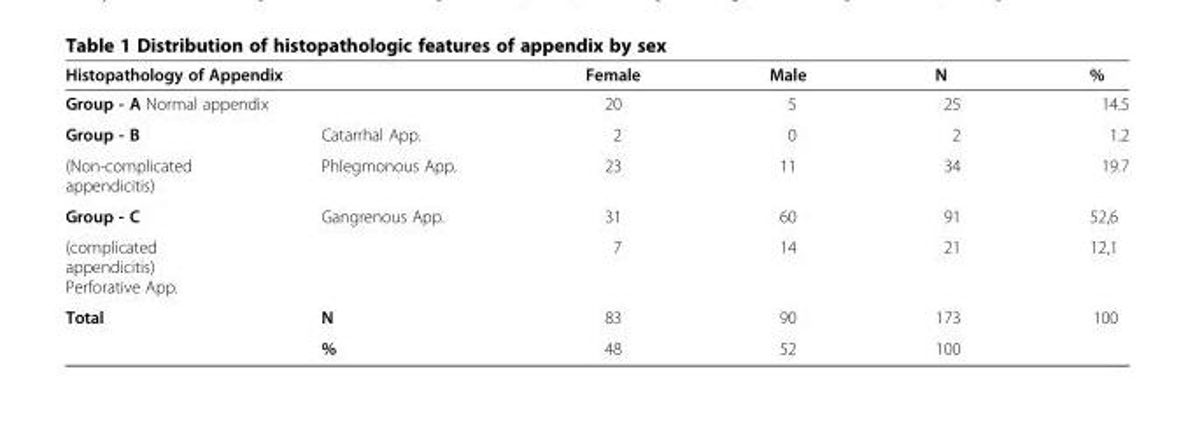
<table><thead><tr><td rowspan="2" colspan="2">Histopathology of Appendix Group - A Normal appendix</td><td rowspan="3">Female 20 2</td><td rowspan="3">Male 5 0</td><td rowspan="3">N 25 2</td><td rowspan="3">% 14.5 1.2</td></tr><tr></tr><tr><td>Group - B</td><td>Catarrhal App.</td></tr></thead><tbody><tr><td>(Non-complicated appendicitis)</td><td>Phlegmonous App.</td><td>23</td><td>11</td><td>34</td><td>19.7</td></tr><tr><td>Group - C</td><td>Gangrenous App.</td><td>31</td><td>60</td><td>91</td><td>52,6</td></tr><tr><td colspan="2">(complicated appendicitis) Perforative App.</td><td>7</td><td>14</td><td>21</td><td>12,1</td></tr><tr><td rowspan="2">Total</td><td>N</td><td>83</td><td>90</td><td>173</td><td>100</td></tr><tr><td>%</td><td>48</td><td>52</td><td>100</td><td></td></tr></tbody></table>